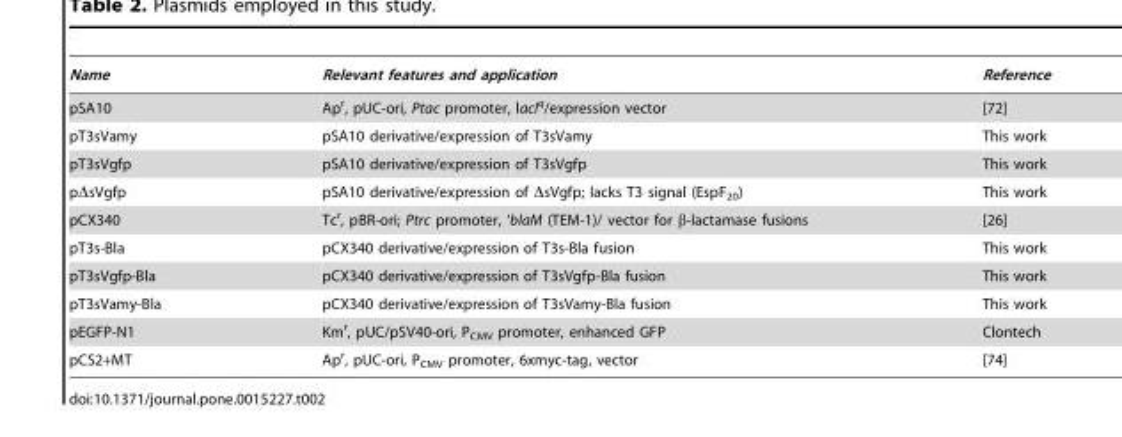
<table><thead><tr><td>Name</td><td>Relevant features and application</td><td>Reference</td></tr></thead><tbody><tr><td>pSA10</td><td>Ap<sup>r</sup>, pUC-ori, Ptac promoter, lacI<sup>q</sup>/expression vector</td><td>[72]</td></tr><tr><td>pT3sVamy</td><td>pSA10 derivative/expression of T3sVamy</td><td>This work</td></tr><tr><td>pT3sVgfp</td><td>pSA10 derivative/expression of T3sVgfp</td><td>This work</td></tr><tr><td>pΔsVgfp</td><td>pSA10 derivative/expression of ΔsVgfp; lacks T3 signal (EspF<sub>20</sub>)</td><td>This work</td></tr><tr><td>pCX340</td><td>Tc<sup>r</sup>, pBR-ori; Ptrc promoter, ‘blaM (TEM-1)/ vector for β-lactamase fusions</td><td>[26]</td></tr><tr><td>pT3s-Bla</td><td>pCX340 derivative/expression of T3s-Bla fusion</td><td>This work</td></tr><tr><td>pT3sVgfp-Bla</td><td>pCX340 derivative/expression of T3sVgfp-Bla fusion</td><td>This work</td></tr><tr><td>pT3sVamy-Bla</td><td>pCX340 derivative/expression of T3sVamy-Bla fusion</td><td>This work</td></tr><tr><td>pEGFP-N1</td><td>Km<sup>r</sup>, pUC/pSV40-ori, P<sub>CMV</sub> promoter, enhanced GFP</td><td>Clontech</td></tr><tr><td>pCS2+MT</td><td>Ap<sup>r</sup>, pUC-ori, P<sub>CMV</sub> promoter, 6xmyc-tag, vector</td><td>[74]</td></tr></tbody></table>